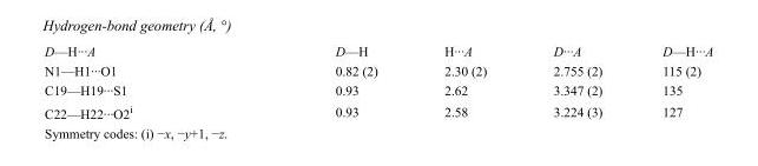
<table><tbody><tr><td>D—H···A</td><td>D—H</td><td>H···A</td><td>D···A</td><td>D—H···A</td></tr><tr><td>N1—H1···O1</td><td>0.82 (2)</td><td>2.30 (2)</td><td>2.755 (2)</td><td>115 (2)</td></tr><tr><td>C19—H19···S1</td><td>0.93</td><td>2.62</td><td>3.347 (2)</td><td>135</td></tr><tr><td>C22—H22···O2<sup>i</sup></td><td>0.93</td><td>2.58</td><td>3.224 (3)</td><td>127</td></tr></tbody></table>